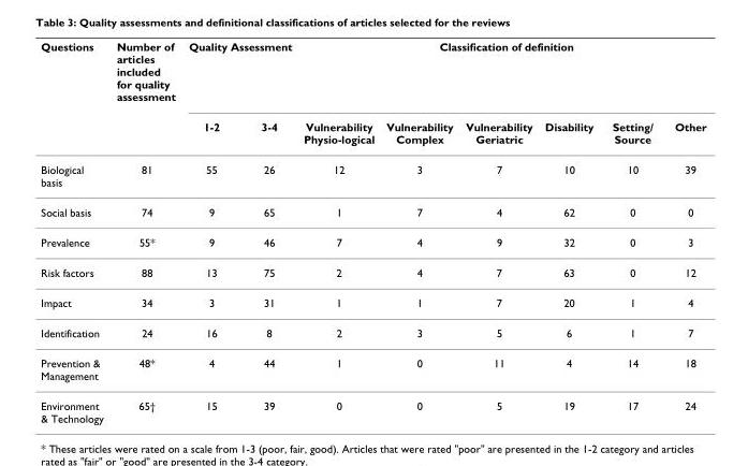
<table><thead><tr><td rowspan="2">Questions</td><td rowspan="2">Number of articles included for quality assessment</td><td colspan="2">Quality Assessment</td><td colspan="6">Classification of definition</td></tr><tr><td>1-2</td><td>3-4</td><td>Vulnerability Physio-logical</td><td>Vulnerability Complex</td><td>Vulnerability Geriatric</td><td>Disability</td><td>Setting/ Source</td><td>Other</td></tr></thead><tbody><tr><td>Biological basis</td><td>81</td><td>55</td><td>26</td><td>12</td><td>3</td><td>7</td><td>10</td><td>10</td><td>39</td></tr><tr><td>Social basis</td><td>74</td><td>9</td><td>65</td><td>1</td><td>7</td><td>4</td><td>62</td><td>0</td><td>0</td></tr><tr><td>Prevalence</td><td>55*</td><td>9</td><td>46</td><td>7</td><td>4</td><td>9</td><td>32</td><td>0</td><td>3</td></tr><tr><td>Risk factors</td><td>88</td><td>13</td><td>75</td><td>2</td><td>4</td><td>7</td><td>63</td><td>0</td><td>12</td></tr><tr><td>Impact</td><td>34</td><td>3</td><td>31</td><td>1</td><td>1</td><td>7</td><td>20</td><td>1</td><td>4</td></tr><tr><td>Identification</td><td>24</td><td>16</td><td>8</td><td>2</td><td>3</td><td>5</td><td>6</td><td>1</td><td>7</td></tr><tr><td>Prevention &amp; Management</td><td>48*</td><td>4</td><td>44</td><td>1</td><td>0</td><td>11</td><td>4</td><td>14</td><td>18</td></tr><tr><td>Environment &amp; Technology</td><td>65†</td><td>15</td><td>39</td><td>0</td><td>0</td><td>5</td><td>19</td><td>17</td><td>24</td></tr></tbody></table>